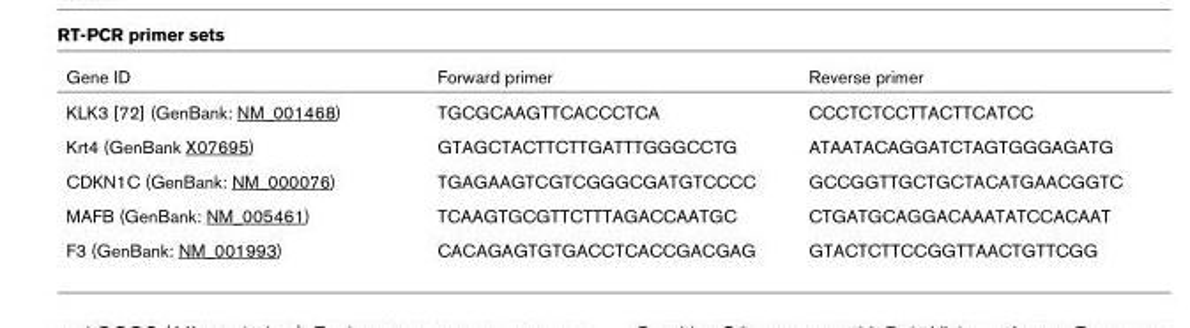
<table><thead><tr><td>Gene ID</td><td>Forward primer</td><td>Reverse primer</td></tr></thead><tbody><tr><td>KLK3 [72] (GenBank: NM_001468)</td><td>TGCGCAAGTTCACCCTCA</td><td>CCCTCTCCTTACTTCATCC</td></tr><tr><td>Krt4 (GenBank X07695)</td><td>GTAGCTACTTCTTGATTTGGGCCTG</td><td>ATAATACAGGATCTAGTGGGAGATG</td></tr><tr><td>CDKN1C (GenBank: NM_000076)</td><td>TGAGAAGTCGTCGGGCGATGTCCCC</td><td>GCCGGTTGCTGCTACATGAACGGTC</td></tr><tr><td>MAFB (GenBank: NM_005461)</td><td>TCAAGTGCGTTCTTTAGACCAATGC</td><td>CTGATGCAGGACAAATATCCACAAT</td></tr><tr><td>F3 (GenBank: NM_001993)</td><td>CACAGAGTGTGACCTCACCGACGAG</td><td>GTACTCTTCCGGTTAACTGTTCGG</td></tr></tbody></table>